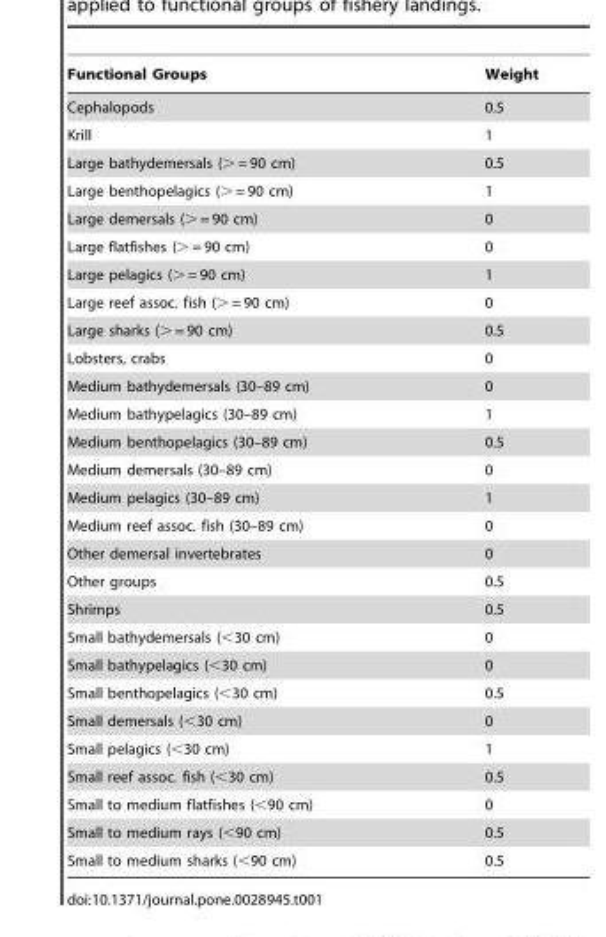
<table><thead><tr><td>Functional Groups</td><td>Weight</td></tr></thead><tbody><tr><td>Cephalopods</td><td>0.5</td></tr><tr><td>Krill</td><td>1</td></tr><tr><td>Large bathydemersals (&gt; = 90 cm)</td><td>0.5</td></tr><tr><td>Large benthopelagics (&gt; = 90 cm)</td><td>1</td></tr><tr><td>Large demersals (&gt; = 90 cm)</td><td>0</td></tr><tr><td>Large flatfishes (&gt; = 90 cm)</td><td>0</td></tr><tr><td>Large pelagics (&gt; = 90 cm)</td><td>1</td></tr><tr><td>Large reef assoc. fish (&gt; = 90 cm)</td><td>0</td></tr><tr><td>Large sharks (&gt; = 90 cm)</td><td>0.5</td></tr><tr><td>Lobsters, crabs</td><td>0</td></tr><tr><td>Medium bathydemersals (30–89 cm)</td><td>0</td></tr><tr><td>Medium bathypelagics (30–89 cm)</td><td>1</td></tr><tr><td>Medium benthopelagics (30–89 cm)</td><td>0.5</td></tr><tr><td>Medium demersals (30–89 cm)</td><td>0</td></tr><tr><td>Medium pelagics (30–89 cm)</td><td>1</td></tr><tr><td>Medium reef assoc. fish (30–89 cm)</td><td>0</td></tr><tr><td>Other demersal invertebrates</td><td>0</td></tr><tr><td>Other groups</td><td>0.5</td></tr><tr><td>Shrimps</td><td>0.5</td></tr><tr><td>Small bathydemersals (&lt;30 cm)</td><td>0</td></tr><tr><td>Small bathypelagics (&lt;30 cm)</td><td>0</td></tr><tr><td>Small benthopelagics (&lt;30 cm)</td><td>0.5</td></tr><tr><td>Small demersals (&lt;30 cm)</td><td>0</td></tr><tr><td>Small pelagics (&lt;30 cm)</td><td>1</td></tr><tr><td>Small reef assoc. fish (&lt;30 cm)</td><td>0.5</td></tr><tr><td>Small to medium flatfishes (&lt;90 cm)</td><td>0</td></tr><tr><td>Small to medium rays (&lt;90 cm)</td><td>0.5</td></tr><tr><td>Small to medium sharks (&lt;90 cm)</td><td>0.5</td></tr></tbody></table>